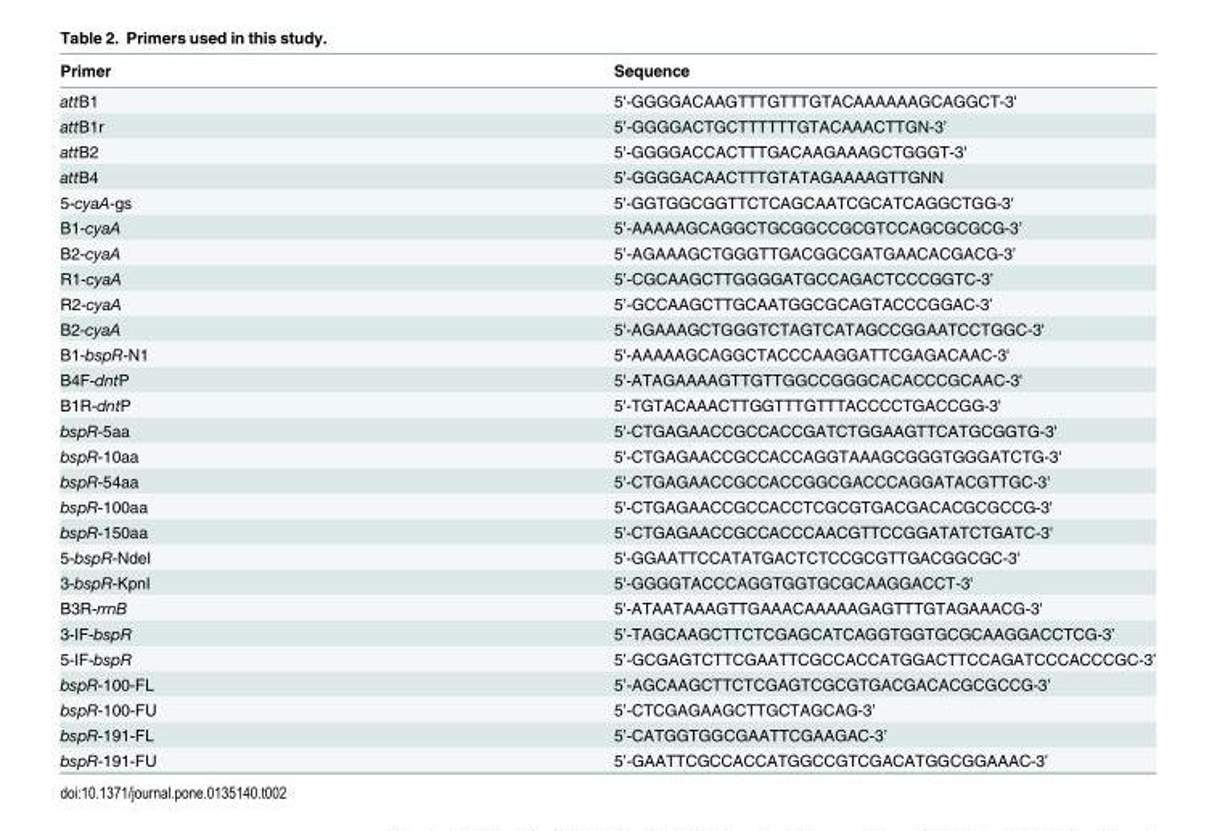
<table><thead><tr><td>Primer</td><td>Sequence</td></tr></thead><tbody><tr><td>attB1</td><td>5&#x27;-GGGGACAAGTTTGTTTGTACAAAAAAGCAGGCT-3&#x27;</td></tr><tr><td>attB1r</td><td>5’-GGGGACTGCTTTTTTGTACAAACTTGN-3’</td></tr><tr><td>attB2</td><td>5&#x27;-GGGGACCACTTTGACAAGAAAGCTGGGT-3&#x27;</td></tr><tr><td>attB4</td><td>5’-GGGGACAACTTTGTATAGAAAAGTTGNN</td></tr><tr><td>5-cyaA-gs</td><td>5&#x27;-GGTGGCGGTTCTCAGCAATCGCATCAGGCTGG-3&#x27;</td></tr><tr><td>B1-cyaA</td><td>5’-AAAAAGCAGGCTGCGGCCGCGTCCAGCGCGCG-3’</td></tr><tr><td>B2-cyaA</td><td>5’-AGAAAGCTGGGTTGACGGCGATGAACACGACG-3’</td></tr><tr><td>R1-cyaA</td><td>5’-CGCAAGCTTGGGGATGCCAGACTCCCGGTC-3’</td></tr><tr><td>R2-cyaA</td><td>5’-GCCAAGCTTGCAATGGCGCAGTACCCGGAC-3’</td></tr><tr><td>B2-cyaA</td><td>5&#x27;-AGAAAGCTGGGTCTAGTCATAGCCGGAATCCTGGC-3&#x27;</td></tr><tr><td>B1-bspR-N1</td><td>5&#x27;-AAAAAGCAGGCTACCCAAGGATTCGAGACAAC-3&#x27;</td></tr><tr><td>B4F-dntP</td><td>5&#x27;-ATAGAAAAGTTGTTGGCCGGGCACACCCGCAAC-3&#x27;</td></tr><tr><td>B1R-dntP</td><td>5&#x27;-TGTACAAACTTGGTTTGTTTACCCCTGACCGG-3&#x27;</td></tr><tr><td>bspR-5aa</td><td>5&#x27;-CTGAGAACCGCCACCGATCTGGAAGTTCATGCGGTG-3&#x27;</td></tr><tr><td>bspR-10aa</td><td>5&#x27;-CTGAGAACCGCCACCAGGTAAAGCGGGTGGGATCTG-3&#x27;</td></tr><tr><td>bspR-54aa</td><td>5&#x27;-CTGAGAACCGCCACCGGCGACCCAGGATACGTTGC-3&#x27;</td></tr><tr><td>bspR-100aa</td><td>5&#x27;-CTGAGAACCGCCACCTCGCGTGACGACACGCGCCG-3&#x27;</td></tr><tr><td>bspR-150aa</td><td>5&#x27;-CTGAGAACCGCCACCCAACGTTCCGGATATCTGATC-3&#x27;</td></tr><tr><td>5-bspR-NdeI</td><td>5&#x27;-GGAATTCCATATGACTCTCCGCGTTGACGGCGC-3&#x27;</td></tr><tr><td>3-bspR-KpnI</td><td>5&#x27;-GGGGTACCCAGGTGGTGCGCAAGGACCT-3&#x27;</td></tr><tr><td>B3R-rrnB</td><td>5&#x27;-ATAATAAAGTTGAAACAAAAAGAGTTTGTAGAAACG-3&#x27;</td></tr><tr><td>3-IF-bspR</td><td>5’-TAGCAAGCTTCTCGAGCATCAGGTGGTGCGCAAGGACCTCG-3’</td></tr><tr><td>5-IF-bspR</td><td>5’-GCGAGTCTTCGAATTCGCCACCATGGACTTCCAGATCCCACCCGC-3’</td></tr><tr><td>bspR-100-FL</td><td>5’-AGCAAGCTTCTCGAGTCGCGTGACGACACGCGCCG-3’</td></tr><tr><td>bspR-100-FU</td><td>5’-CTCGAGAAGCTTGCTAGCAG-3’</td></tr><tr><td>bspR-191-FL</td><td>5’-CATGGTGGCGAATTCGAAGAC-3’</td></tr><tr><td>bspR-191-FU</td><td>5’-GAATTCGCCACCATGGCCGTCGACATGGCGGAAAC-3’</td></tr></tbody></table>